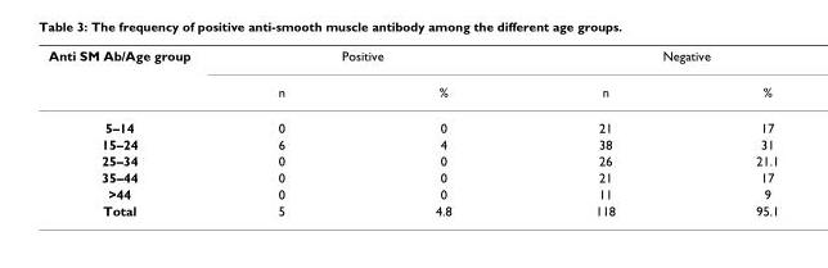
<table><thead><tr><td rowspan="2">Anti SM Ab/Age group</td><td colspan="2">Positive</td><td colspan="2">Negative</td></tr><tr><td>n</td><td>%</td><td>n</td><td>%</td></tr></thead><tbody><tr><td>5–14</td><td>0</td><td>0</td><td>21</td><td>17</td></tr><tr><td>15–24</td><td>6</td><td>4</td><td>38</td><td>31</td></tr><tr><td>25–34</td><td>0</td><td>0</td><td>26</td><td>21.1</td></tr><tr><td>35–44</td><td>0</td><td>0</td><td>21</td><td>17</td></tr><tr><td>&gt;44</td><td>0</td><td>0</td><td>11</td><td>9</td></tr><tr><td>Total</td><td>5</td><td>4.8</td><td>118</td><td>95.1</td></tr></tbody></table>